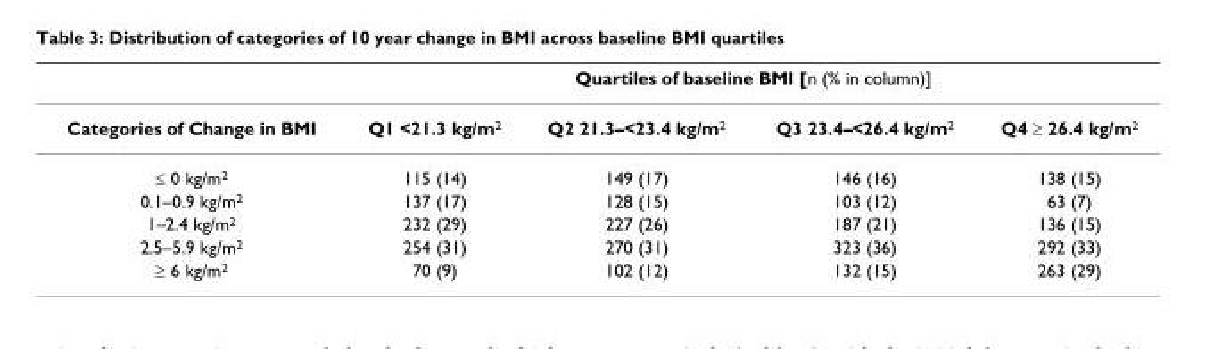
<table><thead><tr><td rowspan="2">Categories of Change in BMI</td><td colspan="4">Quartiles of baseline BMI [n (% in column)]</td></tr><tr><td>Q1 &lt;21.3 kg/m<sup>2</sup></td><td>Q2 21.3–&lt;23.4 kg/m<sup>2</sup></td><td>Q3 23.4–&lt;26.4 kg/m<sup>2</sup></td><td>Q4 ≥ 26.4 kg/m<sup>2</sup></td></tr></thead><tbody><tr><td>≤ 0 kg/m<sup>2</sup></td><td>115 (14)</td><td>149 (17)</td><td>146 (16)</td><td>138 (15)</td></tr><tr><td>0.1–0.9 kg/m<sup>2</sup></td><td>137 (17)</td><td>128 (15)</td><td>103 (12)</td><td>63 (7)</td></tr><tr><td>1–2.4 kg/m<sup>2</sup></td><td>232 (29)</td><td>227 (26)</td><td>187 (21)</td><td>136 (15)</td></tr><tr><td>2.5–5.9 kg/m<sup>2</sup></td><td>254 (31)</td><td>270 (31)</td><td>323 (36)</td><td>292 (33)</td></tr><tr><td>≥ 6 kg/m<sup>2</sup></td><td>70 (9)</td><td>102 (12)</td><td>132 (15)</td><td>263 (29)</td></tr></tbody></table>